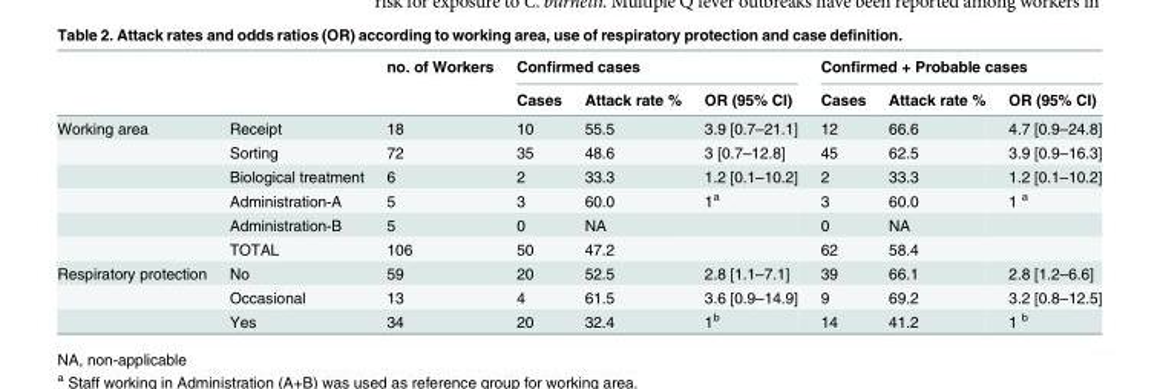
<table><thead><tr><td rowspan="2"></td><td rowspan="2"></td><td rowspan="2">no. of Workers</td><td colspan="3">Confirmed cases</td><td colspan="3">Confirmed + Probable cases</td></tr><tr><td>Cases</td><td>Attack rate %</td><td>OR (95% CI)</td><td>Cases</td><td>Attack rate %</td><td>OR (95% CI)</td></tr></thead><tbody><tr><td rowspan="6">Working area</td><td>Receipt</td><td>18</td><td>10</td><td>55.5</td><td>3.9 [0.7–21.1]</td><td>12</td><td>66.6</td><td>4.7 [0.9–24.8]</td></tr><tr><td>Sorting</td><td>72</td><td>35</td><td>48.6</td><td>3 [0.7–12.8]</td><td>45</td><td>62.5</td><td>3.9 [0.9–16.3]</td></tr><tr><td>Biological treatment</td><td>6</td><td>2</td><td>33.3</td><td>1.2 [0.1–10.2]</td><td>2</td><td>33.3</td><td>1.2 [0.1–10.2]</td></tr><tr><td>Administration-A</td><td>5</td><td>3</td><td>60.0</td><td>1<sup>a</sup></td><td>3</td><td>60.0</td><td>1 <sup>a</sup></td></tr><tr><td>Administration-B</td><td>5</td><td>0</td><td>NA</td><td></td><td>0</td><td>NA</td><td></td></tr><tr><td>TOTAL</td><td>106</td><td>50</td><td>47.2</td><td></td><td>62</td><td>58.4</td><td></td></tr><tr><td rowspan="3">Respiratory protection</td><td>No</td><td>59</td><td>20</td><td>52.5</td><td>2.8 [1.1–7.1]</td><td>39</td><td>66.1</td><td>2.8 [1.2–6.6]</td></tr><tr><td>Occasional</td><td>13</td><td>4</td><td>61.5</td><td>3.6 [0.9–14.9]</td><td>9</td><td>69.2</td><td>3.2 [0.8–12.5]</td></tr><tr><td>Yes</td><td>34</td><td>20</td><td>32.4</td><td>1<sup>b</sup></td><td>14</td><td>41.2</td><td>1 <sup>b</sup></td></tr></tbody></table>